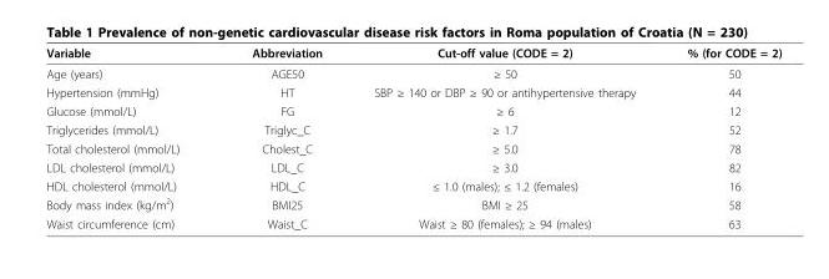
<table><thead><tr><td>Variable</td><td>Abbreviation</td><td>Cut-off value (CODE = 2)</td><td>% (for CODE = 2)</td></tr></thead><tbody><tr><td>Age (years)</td><td>AGE50</td><td>≥ 50</td><td>50</td></tr><tr><td>Hypertension (mmHg)</td><td>HT</td><td>SBP ≥ 140 or DBP ≥ 90 or antihypertensive therapy</td><td>44</td></tr><tr><td>Glucose (mmol/L)</td><td>FG</td><td>≥ 6</td><td>12</td></tr><tr><td>Triglycerides (mmol/L)</td><td>Triglyc_C</td><td>≥ 1.7</td><td>52</td></tr><tr><td>Total cholesterol (mmol/L)</td><td>Cholest_C</td><td>≥ 5.0</td><td>78</td></tr><tr><td>LDL cholesterol (mmol/L)</td><td>LDL_C</td><td>≥ 3.0</td><td>82</td></tr><tr><td>HDL cholesterol (mmol/L)</td><td>HDL_C</td><td>≤ 1.0 (males); ≤ 1.2 (females)</td><td>16</td></tr><tr><td>Body mass index (kg/m<sup>2</sup>)</td><td>BMI25</td><td>BMI ≥ 25</td><td>58</td></tr><tr><td>Waist circumference (cm)</td><td>Waist_C</td><td>Waist ≥ 80 (females); ≥ 94 (males)</td><td>63</td></tr></tbody></table>